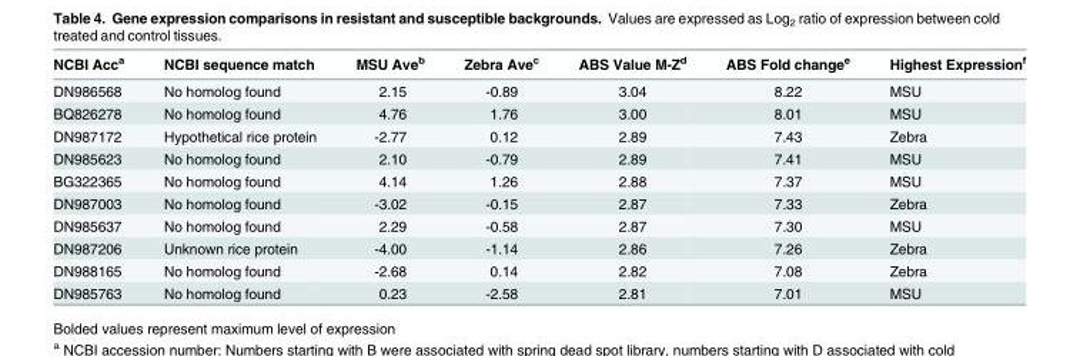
<table><thead><tr><td>NCBI Acc<sup>a</sup></td><td>NCBI sequence match</td><td>MSU Ave<sup>b</sup></td><td>Zebra Ave<sup>c</sup></td><td>ABS Value M-Z<sup>d</sup></td><td>ABS Fold change<sup>e</sup></td><td>Highest Expression<sup>f</sup></td></tr></thead><tbody><tr><td>DN986568</td><td>No homolog found</td><td>2.15</td><td>-0.89</td><td>3.04</td><td>8.22</td><td>MSU</td></tr><tr><td>BQ826278</td><td>No homolog found</td><td>4.76</td><td>1.76</td><td>3.00</td><td>8.01</td><td>MSU</td></tr><tr><td>DN987172</td><td>Hypothetical rice protein</td><td>-2.77</td><td>0.12</td><td>2.89</td><td>7.43</td><td>Zebra</td></tr><tr><td>DN985623</td><td>No homolog found</td><td>2.10</td><td>-0.79</td><td>2.89</td><td>7.41</td><td>MSU</td></tr><tr><td>BG322365</td><td>No homolog found</td><td>4.14</td><td>1.26</td><td>2.88</td><td>7.37</td><td>MSU</td></tr><tr><td>DN987003</td><td>No homolog found</td><td>-3.02</td><td>-0.15</td><td>2.87</td><td>7.33</td><td>Zebra</td></tr><tr><td>DN985637</td><td>No homolog found</td><td>2.29</td><td>-0.58</td><td>2.87</td><td>7.30</td><td>MSU</td></tr><tr><td>DN987206</td><td>Unknown rice protein</td><td>-4.00</td><td>-1.14</td><td>2.86</td><td>7.26</td><td>Zebra</td></tr><tr><td>DN988165</td><td>No homolog found</td><td>-2.68</td><td>0.14</td><td>2.82</td><td>7.08</td><td>Zebra</td></tr><tr><td>DN985763</td><td>No homolog found</td><td>0.23</td><td>-2.58</td><td>2.81</td><td>7.01</td><td>MSU</td></tr></tbody></table>